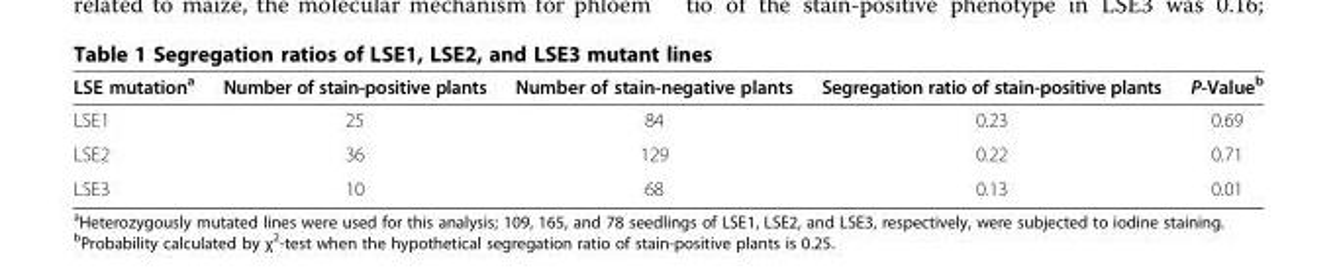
<table><thead><tr><td>LSE mutation<sup>a</sup></td><td>Number of stain-positive plants</td><td>Number of stain-negative plants</td><td>Segregation ratio of stain-positive plants</td><td>P-Value<sup>b</sup></td></tr></thead><tbody><tr><td>LSE1</td><td>25</td><td>84</td><td>0.23</td><td>0.69</td></tr><tr><td>LSE2</td><td>36</td><td>129</td><td>0.22</td><td>0.71</td></tr><tr><td>LSE3</td><td>10</td><td>68</td><td>0.13</td><td>0.01</td></tr></tbody></table>